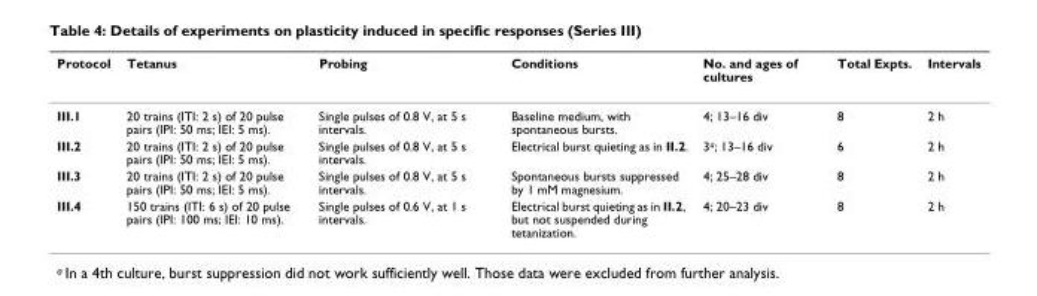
<table><thead><tr><td>Protocol</td><td>Tetanus</td><td>Probing</td><td>Conditions</td><td>No. and ages of cultures</td><td>Total Expts.</td><td>Intervals</td></tr></thead><tbody><tr><td>III.1</td><td>20 trains (ITI: 2 s) of 20 pulse pairs (IPI: 50 ms; IEI: 5 ms).</td><td>Single pulses of 0.8 V, at 5 s intervals.</td><td>Baseline medium, with spontaneous bursts.</td><td>4; 13–16 div</td><td>8</td><td>2 h</td></tr><tr><td>III.2</td><td>20 trains (ITI: 2 s) of 20 pulse pairs (IPI: 50 ms; IEI: 5 ms).</td><td>Single pulses of 0.8 V, at 5 s intervals.</td><td>Electrical burst quieting as in II.2.</td><td>3<sup>a</sup>; 13–16 div</td><td>6</td><td>2 h</td></tr><tr><td>III.3</td><td>20 trains (ITI: 2 s) of 20 pulse pairs (IPI: 50 ms; IEI: 5 ms).</td><td>Single pulses of 0.8 V, at 5 s intervals.</td><td>Spontaneous bursts suppressed by 1 mM magnesium.</td><td>4; 25–28 div</td><td>8</td><td>2 h</td></tr><tr><td>III.4</td><td>150 trains (ITI: 6 s) of 20 pulse pairs (IPI: 100 ms; IEI: 10 ms).</td><td>Single pulses of 0.6 V, at 1 s intervals.</td><td>Electrical burst quieting as in II.2, but not suspended during tetanization.</td><td>4; 20–23 div</td><td>8</td><td>2 h</td></tr></tbody></table>